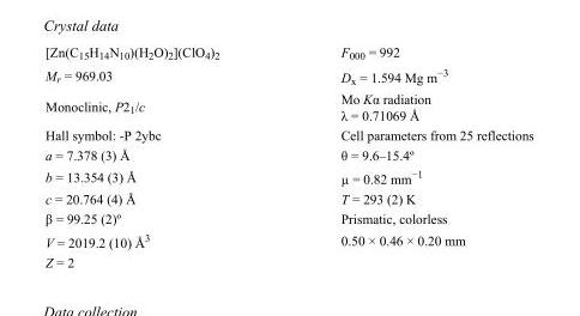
<table><tbody><tr><td>[Zn(C<sub>15</sub>H<sub>14</sub>N<sub>10</sub>)(H<sub>2</sub>O)<sub>2</sub>](ClO<sub>4</sub>)<sub>2</sub></td><td>F<sub>000</sub> = 992</td></tr><tr><td>M<sub>r</sub> = 969.03</td><td>D<sub>x</sub> = 1.594 Mg m<sup>−3</sup></td></tr><tr><td>Monoclinic, P2<sub>1</sub>/c</td><td>Mo Kα radiation λ = 0.71069 Å</td></tr><tr><td>Hall symbol: -P 2ybc</td><td>Cell parameters from 25 reflections</td></tr><tr><td>a = 7.378 (3) Å</td><td>θ = 9.6–15.4º</td></tr><tr><td>b = 13.354 (3) Å</td><td>µ = 0.82 mm<sup>−1</sup></td></tr><tr><td>c = 20.764 (4) Å</td><td>T = 293 (2) K</td></tr><tr><td>β = 99.25 (2)º</td><td>Prismatic, colorless</td></tr><tr><td>V = 2019.2 (10) Å<sup>3</sup></td><td>0.50 × 0.46 × 0.20 mm</td></tr><tr><td>Z = 2</td><td></td></tr></tbody></table>